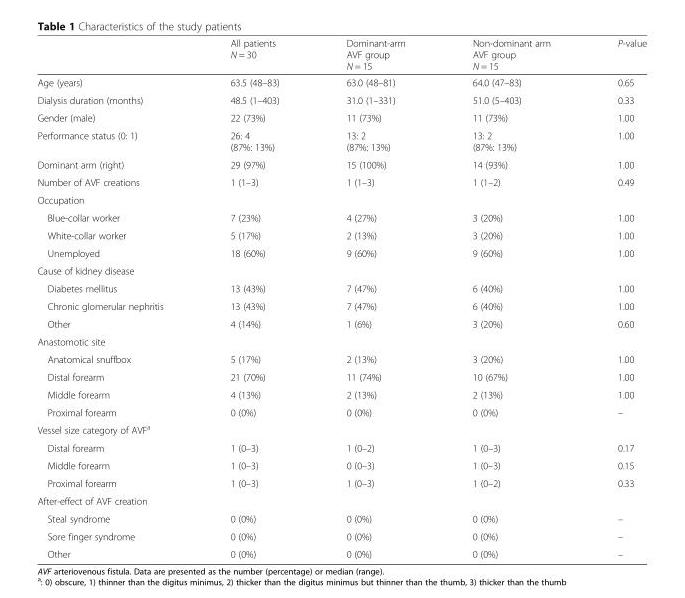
<table><thead><tr><td></td><td>All patients N = 30</td><td>Dominant-arm AVF group N = 15</td><td>Non-dominant arm AVF group N = 15</td><td>P-value</td></tr></thead><tbody><tr><td>Age (years)</td><td>63.5 (48–83)</td><td>63.0 (48–81)</td><td>64.0 (47–83)</td><td>0.65</td></tr><tr><td>Dialysis duration (months)</td><td>48.5 (1–403)</td><td>31.0 (1–331)</td><td>51.0 (5–403)</td><td>0.33</td></tr><tr><td>Gender (male)</td><td>22 (73%)</td><td>11 (73%)</td><td>11 (73%)</td><td>1.00</td></tr><tr><td>Performance status (0: 1)</td><td>26: 4 (87%: 13%)</td><td>13: 2 (87%: 13%)</td><td>13: 2 (87%: 13%)</td><td>1.00</td></tr><tr><td>Dominant arm (right)</td><td>29 (97%)</td><td>15 (100%)</td><td>14 (93%)</td><td>1.00</td></tr><tr><td>Number of AVF creations</td><td>1 (1–3)</td><td>1 (1–3)</td><td>1 (1–2)</td><td>0.49</td></tr><tr><td colspan="5">Occupation</td></tr><tr><td>Blue-collar worker</td><td>7 (23%)</td><td>4 (27%)</td><td>3 (20%)</td><td>1.00</td></tr><tr><td>White-collar worker</td><td>5 (17%)</td><td>2 (13%)</td><td>3 (20%)</td><td>1.00</td></tr><tr><td>Unemployed</td><td>18 (60%)</td><td>9 (60%)</td><td>9 (60%)</td><td>1.00</td></tr><tr><td colspan="5">Cause of kidney disease</td></tr><tr><td>Diabetes mellitus</td><td>13 (43%)</td><td>7 (47%)</td><td>6 (40%)</td><td>1.00</td></tr><tr><td>Chronic glomerular nephritis</td><td>13 (43%)</td><td>7 (47%)</td><td>6 (40%)</td><td>1.00</td></tr><tr><td>Other</td><td>4 (14%)</td><td>1 (6%)</td><td>3 (20%)</td><td>0.60</td></tr><tr><td colspan="5">Anastomotic site</td></tr><tr><td>Anatomical snuffbox</td><td>5 (17%)</td><td>2 (13%)</td><td>3 (20%)</td><td>1.00</td></tr><tr><td>Distal forearm</td><td>21 (70%)</td><td>11 (74%)</td><td>10 (67%)</td><td>1.00</td></tr><tr><td>Middle forearm</td><td>4 (13%)</td><td>2 (13%)</td><td>2 (13%)</td><td>1.00</td></tr><tr><td>Proximal forearm</td><td>0 (0%)</td><td>0 (0%)</td><td>0 (0%)</td><td>–</td></tr><tr><td colspan="5">Vessel size category of AVF<sup>a</sup></td></tr><tr><td>Distal forearm</td><td>1 (0–3)</td><td>1 (0–2)</td><td>1 (0–3)</td><td>0.17</td></tr><tr><td>Middle forearm</td><td>1 (0–3)</td><td>0 (0–3)</td><td>1 (0–3)</td><td>0.15</td></tr><tr><td>Proximal forearm</td><td>1 (0–3)</td><td>1 (0–3)</td><td>1 (0–2)</td><td>0.33</td></tr><tr><td colspan="5">After-effect of AVF creation</td></tr><tr><td>Steal syndrome</td><td>0 (0%)</td><td>0 (0%)</td><td>0 (0%)</td><td>–</td></tr><tr><td>Sore finger syndrome</td><td>0 (0%)</td><td>0 (0%)</td><td>0 (0%)</td><td>–</td></tr><tr><td>Other</td><td>0 (0%)</td><td>0 (0%)</td><td>0 (0%)</td><td>–</td></tr></tbody></table>